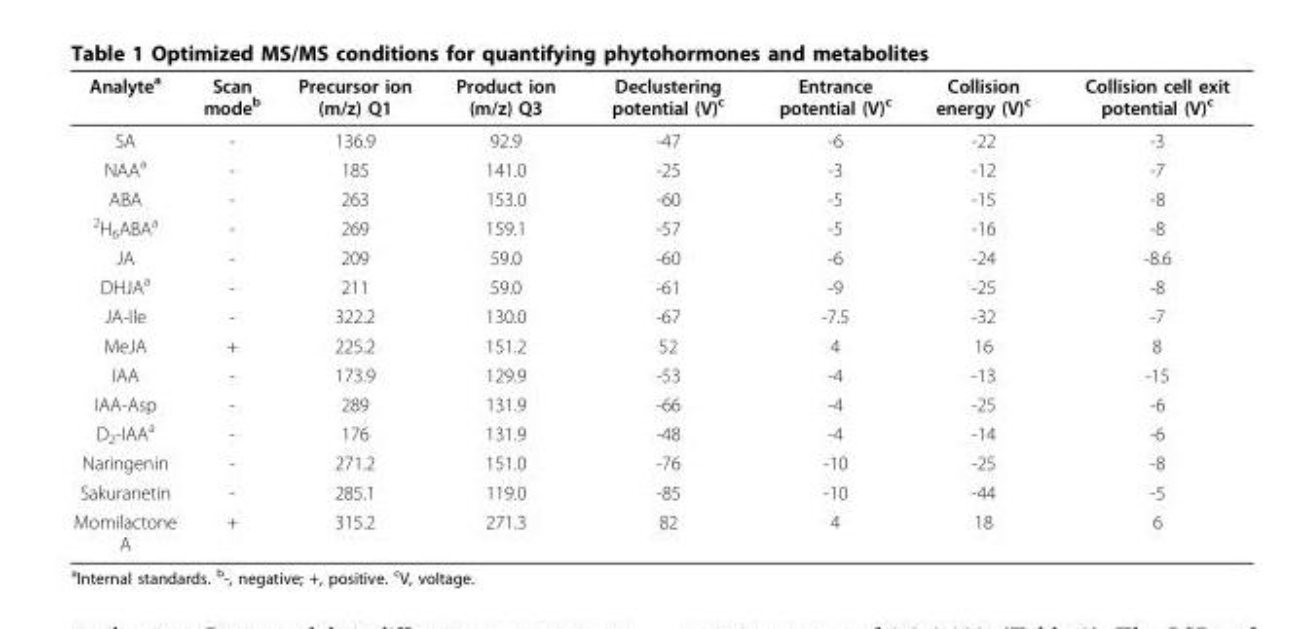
<table><thead><tr><td>Analyte<sup>a</sup></td><td>Scan mode<sup>b</sup></td><td>Precursor ion (m/z) Q1</td><td>Product ion (m/z) Q3</td><td>Declustering potential (V)<sup>c</sup></td><td>Entrance potential (V)<sup>c</sup></td><td>Collision energy (V)<sup>c</sup></td><td>Collision cell exit potential (V)<sup>c</sup></td></tr></thead><tbody><tr><td>SA</td><td>-</td><td>136.9</td><td>92.9</td><td>-47</td><td>-6</td><td>-22</td><td>-3</td></tr><tr><td>NAA<sup>a</sup></td><td>-</td><td>185</td><td>141.0</td><td>-25</td><td>-3</td><td>-12</td><td>-7</td></tr><tr><td>ABA</td><td>-</td><td>263</td><td>153.0</td><td>-60</td><td>-5</td><td>-15</td><td>-8</td></tr><tr><td><sup>2</sup>H<sub>6</sub>ABA<sup>a</sup></td><td>-</td><td>269</td><td>159.1</td><td>-57</td><td>-5</td><td>-16</td><td>-8</td></tr><tr><td>JA</td><td>-</td><td>209</td><td>59.0</td><td>-60</td><td>-6</td><td>-24</td><td>-8.6</td></tr><tr><td>DHJA<sup>a</sup></td><td>-</td><td>211</td><td>59.0</td><td>-61</td><td>-9</td><td>-25</td><td>-8</td></tr><tr><td>JA-Ile</td><td>-</td><td>322.2</td><td>130.0</td><td>-67</td><td>-7.5</td><td>-32</td><td>-7</td></tr><tr><td>MeJA</td><td>+</td><td>225.2</td><td>151.2</td><td>52</td><td>4</td><td>16</td><td>8</td></tr><tr><td>IAA</td><td>-</td><td>173.9</td><td>129.9</td><td>-53</td><td>-4</td><td>-13</td><td>-15</td></tr><tr><td>IAA-Asp</td><td>-</td><td>289</td><td>131.9</td><td>-66</td><td>-4</td><td>-25</td><td>-6</td></tr><tr><td>D<sub>2</sub>-IAA<sup>a</sup></td><td>-</td><td>176</td><td>131.9</td><td>-48</td><td>-4</td><td>-14</td><td>-6</td></tr><tr><td>Naringenin</td><td>-</td><td>271.2</td><td>151.0</td><td>-76</td><td>-10</td><td>-25</td><td>-8</td></tr><tr><td>Sakuranetin</td><td>-</td><td>285.1</td><td>119.0</td><td>-85</td><td>-10</td><td>-44</td><td>-5</td></tr><tr><td>Momilactone A</td><td>+</td><td>315.2</td><td>271.3</td><td>82</td><td>4</td><td>18</td><td>6</td></tr></tbody></table>